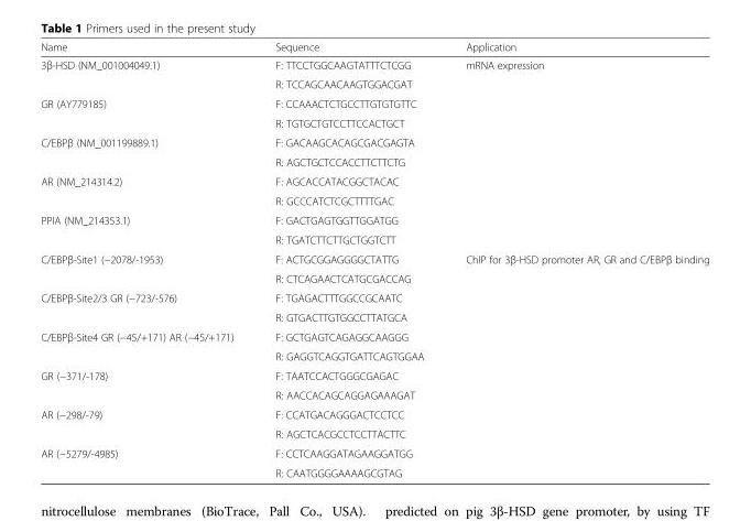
<table><thead><tr><td>Name</td><td>Sequence</td><td>Application</td></tr></thead><tbody><tr><td rowspan="2">3β-HSD (NM_001004049.1)</td><td>F: TTCCTGGCAAGTATTTCTCGG</td><td rowspan="10">mRNA expression</td></tr><tr><td>R: TCCAGCAACAAGTGGACGAT</td></tr><tr><td rowspan="2">GR (AY779185)</td><td>F: CCAAACTCTGCCTTGTGTGTTC</td></tr><tr><td>R: TGTGCTGTCCTTCCACTGCT</td></tr><tr><td rowspan="2">C/EBPβ (NM_001199889.1)</td><td>F: GACAAGCACAGCGACGAGTA</td></tr><tr><td>R: AGCTGCTCCACCTTCTTCTG</td></tr><tr><td rowspan="2">AR (NM_214314.2)</td><td>F: AGCACCATACGGCTACAC</td></tr><tr><td>R: GCCCATCTCGCTTTTGAC</td></tr><tr><td rowspan="2">PPIA (NM_214353.1)</td><td>F: GACTGAGTGGTTGGATGG</td></tr><tr><td>R: TGATCTTCTTGCTGGTCTT</td></tr><tr><td rowspan="2">C/EBPβ-Site1 (−2078/-1953)</td><td>F: ACTGCGGAGGGGCTATTG</td><td rowspan="12">ChIP for 3β-HSD promoter AR, GR and C/EBPβ binding</td></tr><tr><td>R: CTCAGAACTCATGCGACCAG</td></tr><tr><td rowspan="2">C/EBPβ-Site2/3 GR (−723/-576)</td><td>F: TGAGACTTTGGCCGCAATC</td></tr><tr><td>R: GTGACTTGTGGCCTTATGCA</td></tr><tr><td rowspan="2">C/EBPβ-Site4 GR (−45/+171) AR (−45/+171)</td><td>F: GCTGAGTCAGAGGCAAGGG</td></tr><tr><td>R: GAGGTCAGGTGATTCAGTGGAA</td></tr><tr><td rowspan="2">GR (−371/-178)</td><td>F: TAATCCACTGGGCGAGAC</td></tr><tr><td>R: AACCACAGCAGGAGAAAGAT</td></tr><tr><td rowspan="2">AR (−298/-79)</td><td>F: CCATGACAGGGACTCCTCC</td></tr><tr><td>R: AGCTCACGCCTCCTTACTTC</td></tr><tr><td rowspan="2">AR (−5279/-4985)</td><td>F: CCTCAAGGATAGAAGGATGG</td></tr><tr><td>R: CAATGGGGAAAAGCGTAG</td></tr></tbody></table>